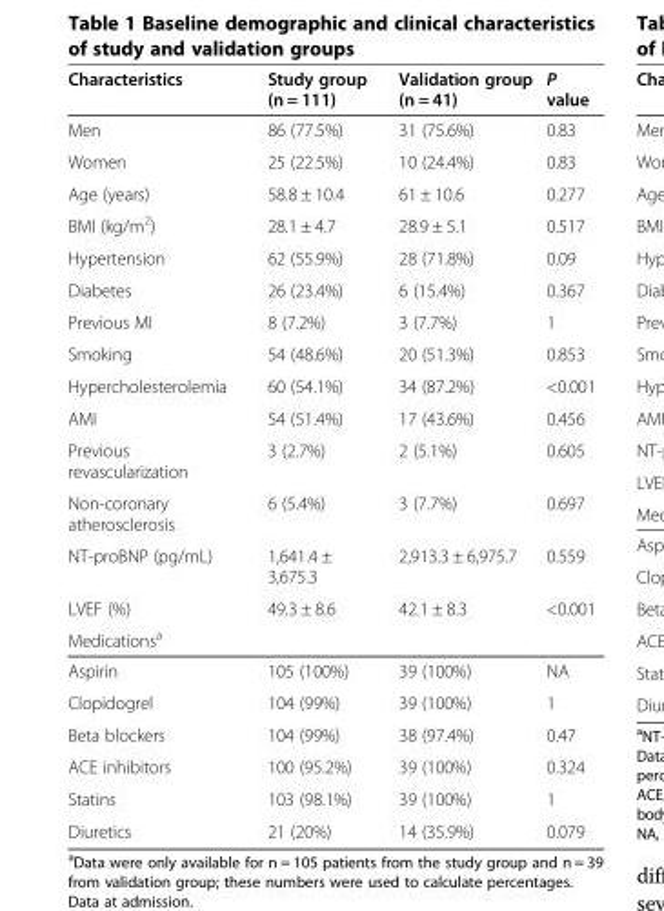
<table><thead><tr><td>Characteristics</td><td>Study group (n = 111)</td><td>Validation group (n = 41)</td><td>P value</td></tr></thead><tbody><tr><td>Men</td><td>86 (77.5%)</td><td>31 (75.6%)</td><td>0.83</td></tr><tr><td>Women</td><td>25 (22.5%)</td><td>10 (24.4%)</td><td>0.83</td></tr><tr><td>Age (years)</td><td>58.8 ± 10.4</td><td>61 ± 10.6</td><td>0.277</td></tr><tr><td>BMI (kg/m<sup>2</sup>)</td><td>28.1 ± 4.7</td><td>28.9 ± 5.1</td><td>0.517</td></tr><tr><td>Hypertension</td><td>62 (55.9%)</td><td>28 (71.8%)</td><td>0.09</td></tr><tr><td>Diabetes</td><td>26 (23.4%)</td><td>6 (15.4%)</td><td>0.367</td></tr><tr><td>Previous MI</td><td>8 (7.2%)</td><td>3 (7.7%)</td><td>1</td></tr><tr><td>Smoking</td><td>54 (48.6%)</td><td>20 (51.3%)</td><td>0.853</td></tr><tr><td>Hypercholesterolemia</td><td>60 (54.1%)</td><td>34 (87.2%)</td><td>&lt;0.001</td></tr><tr><td>AMI</td><td>54 (51.4%)</td><td>17 (43.6%)</td><td>0.456</td></tr><tr><td>Previous revascularization</td><td>3 (2.7%)</td><td>2 (5.1%)</td><td>0.605</td></tr><tr><td>Non-coronary atherosclerosis</td><td>6 (5.4%)</td><td>3 (7.7%)</td><td>0.697</td></tr><tr><td>NT-proBNP (pg/mL)</td><td>1,641.4 ± 3,675.3</td><td>2,913.3 ± 6,975.7</td><td>0.559</td></tr><tr><td>LVEF (%)</td><td>49.3 ± 8.6</td><td>42.1 ± 8.3</td><td>&lt;0.001</td></tr><tr><td colspan="4">Medications<sup>a</sup></td></tr><tr><td>Aspirin</td><td>105 (100%)</td><td>39 (100%)</td><td>NA</td></tr><tr><td>Clopidogrel</td><td>104 (99%)</td><td>39 (100%)</td><td>1</td></tr><tr><td>Beta blockers</td><td>104 (99%)</td><td>38 (97.4%)</td><td>0.47</td></tr><tr><td>ACE inhibitors</td><td>100 (95.2%)</td><td>39 (100%)</td><td>0.324</td></tr><tr><td>Statins</td><td>103 (98.1%)</td><td>39 (100%)</td><td>1</td></tr><tr><td>Diuretics</td><td>21 (20%)</td><td>14 (35.9%)</td><td>0.079</td></tr></tbody></table>